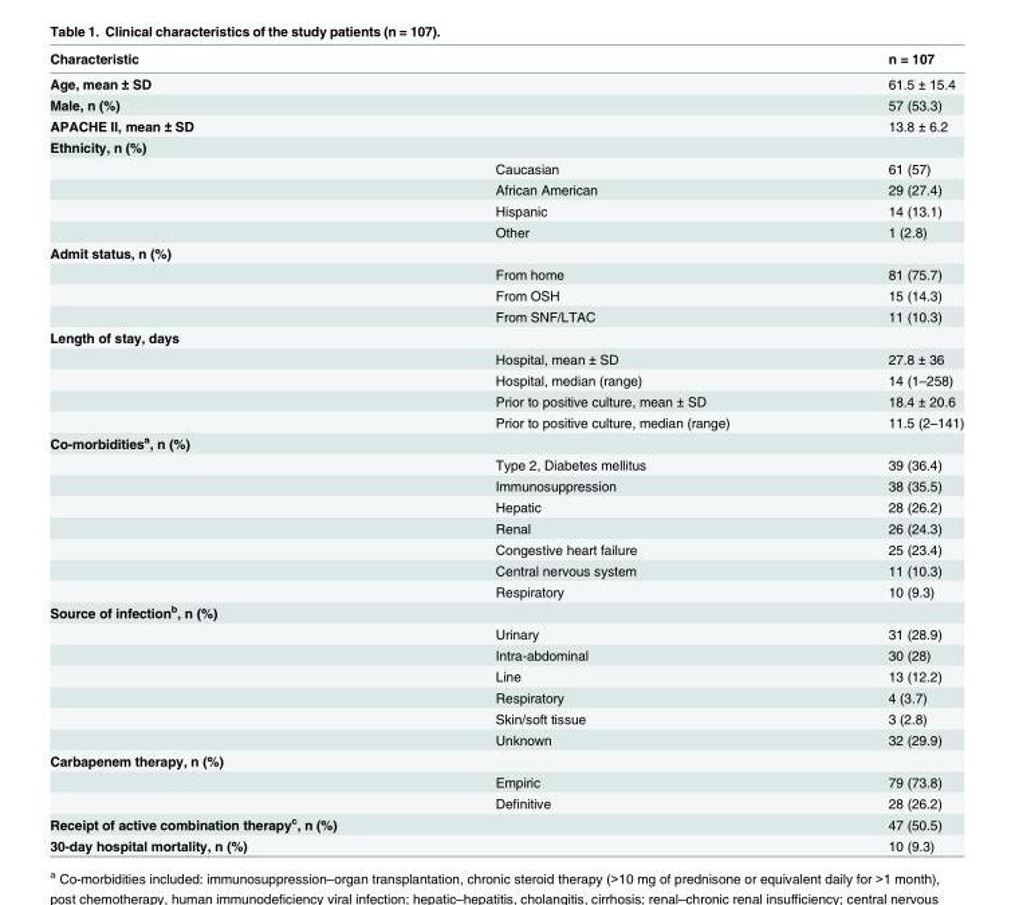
<table><thead><tr><td colspan="2">Characteristic</td><td rowspan="2">n = 107 61.5 ± 15.4</td></tr><tr><td>Age, mean ± SD</td><td></td></tr></thead><tbody><tr><td>Male, n (%)</td><td></td><td>57 (53.3)</td></tr><tr><td>APACHE II, mean ± SD</td><td></td><td>13.8 ± 6.2</td></tr><tr><td colspan="3">Ethnicity, n (%)</td></tr><tr><td></td><td>Caucasian</td><td>61 (57)</td></tr><tr><td></td><td>African American</td><td>29 (27.4)</td></tr><tr><td></td><td>Hispanic</td><td>14 (13.1)</td></tr><tr><td></td><td>Other</td><td>1 (2.8)</td></tr><tr><td colspan="3">Admit status, n (%)</td></tr><tr><td></td><td>From home</td><td>81 (75.7)</td></tr><tr><td></td><td>From OSH</td><td>15 (14.3)</td></tr><tr><td></td><td>From SNF/LTAC</td><td>11 (10.3)</td></tr><tr><td colspan="3">Length of stay, days</td></tr><tr><td></td><td>Hospital, mean ± SD</td><td>27.8 ± 36</td></tr><tr><td></td><td>Hospital, median (range)</td><td>14 (1–258)</td></tr><tr><td></td><td>Prior to positive culture, mean ± SD</td><td>18.4 ± 20.6</td></tr><tr><td></td><td>Prior to positive culture, median (range)</td><td>11.5 (2–141)</td></tr><tr><td colspan="3">Co-morbidities<sup>a</sup>, n (%)</td></tr><tr><td></td><td>Type 2, Diabetes mellitus</td><td>39 (36.4)</td></tr><tr><td></td><td>Immunosuppression</td><td>38 (35.5)</td></tr><tr><td></td><td>Hepatic</td><td>28 (26.2)</td></tr><tr><td></td><td>Renal</td><td>26 (24.3)</td></tr><tr><td></td><td>Congestive heart failure</td><td>25 (23.4)</td></tr><tr><td></td><td>Central nervous system</td><td>11 (10.3)</td></tr><tr><td></td><td>Respiratory</td><td>10 (9.3)</td></tr><tr><td colspan="3">Source of infection<sup>b</sup>, n (%)</td></tr><tr><td></td><td>Urinary</td><td>31 (28.9)</td></tr><tr><td></td><td>Intra-abdominal</td><td>30 (28)</td></tr><tr><td></td><td>Line</td><td>13 (12.2)</td></tr><tr><td></td><td>Respiratory</td><td>4 (3.7)</td></tr><tr><td></td><td>Skin/soft tissue</td><td>3 (2.8)</td></tr><tr><td></td><td>Unknown</td><td>32 (29.9)</td></tr><tr><td colspan="3">Carbapenem therapy, n (%)</td></tr><tr><td></td><td>Empiric</td><td>79 (73.8)</td></tr><tr><td></td><td>Definitive</td><td>28 (26.2)</td></tr><tr><td>Receipt of active combination therapy<sup>c</sup>, n (%)</td><td></td><td>47 (50.5)</td></tr><tr><td>30-day hospital mortality, n (%)</td><td></td><td>10 (9.3)</td></tr></tbody></table>